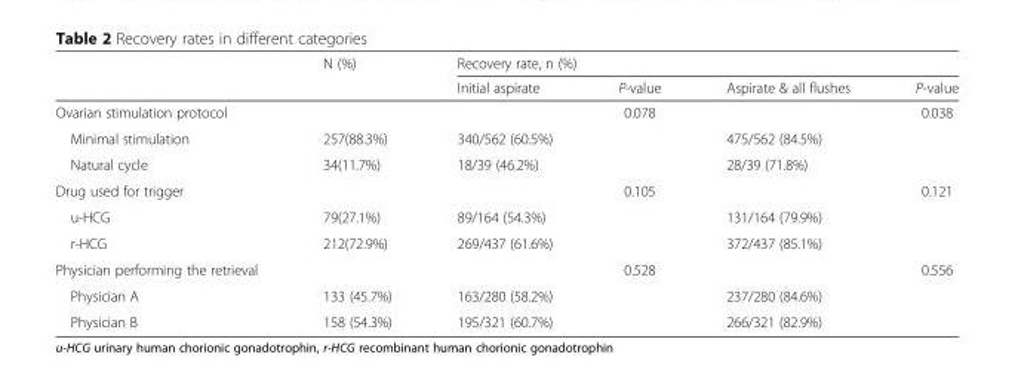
<table><thead><tr><td rowspan="2"></td><td rowspan="2">N (%)</td><td colspan="4">Recovery rate, n (%)</td></tr><tr><td>Initial aspirate</td><td>P-value</td><td>Aspirate &amp; all flushes</td><td>P-value</td></tr></thead><tbody><tr><td>Ovarian stimulation protocol</td><td></td><td></td><td>0.078</td><td></td><td>0.038</td></tr><tr><td>Minimal stimulation</td><td>257(88.3%)</td><td>340/562 (60.5%)</td><td></td><td>475/562 (84.5%)</td><td></td></tr><tr><td>Natural cycle</td><td>34(11.7%)</td><td>18/39 (46.2%)</td><td></td><td>28/39 (71.8%)</td><td></td></tr><tr><td>Drug used for trigger</td><td></td><td></td><td>0.105</td><td></td><td>0.121</td></tr><tr><td>u-HCG</td><td>79(27.1%)</td><td>89/164 (54.3%)</td><td></td><td>131/164 (79.9%)</td><td></td></tr><tr><td>r-HCG</td><td>212(72.9%)</td><td>269/437 (61.6%)</td><td></td><td>372/437 (85.1%)</td><td></td></tr><tr><td>Physician performing the retrieval</td><td></td><td></td><td>0.528</td><td></td><td>0.556</td></tr><tr><td>Physician A</td><td>133 (45.7%)</td><td>163/280 (58.2%)</td><td></td><td>237/280 (84.6%)</td><td></td></tr><tr><td>Physician B</td><td>158 (54.3%)</td><td>195/321 (60.7%)</td><td></td><td>266/321 (82.9%)</td><td></td></tr></tbody></table>